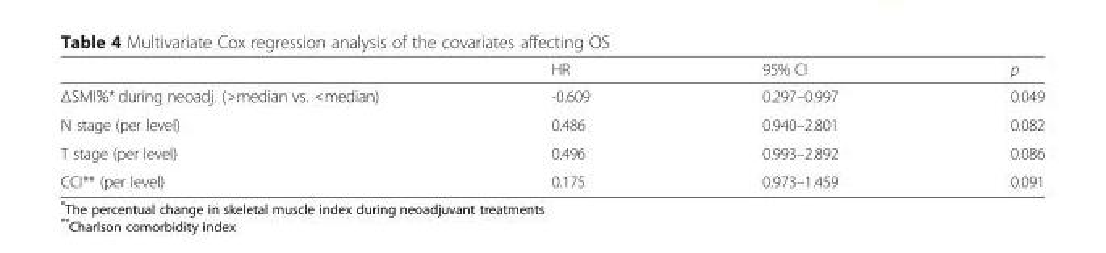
<table><thead><tr><td></td><td>HR</td><td>95% CI</td><td>p</td></tr></thead><tbody><tr><td>ΔSMI%* during neoadj. (&gt;median vs. &lt;median)</td><td>-0.609</td><td>0.297–0.997</td><td>0.049</td></tr><tr><td>N stage (per level)</td><td>0.486</td><td>0.940–2.801</td><td>0.082</td></tr><tr><td>T stage (per level)</td><td>0.496</td><td>0.993–2.892</td><td>0.086</td></tr><tr><td>CCI** (per level)</td><td>0.175</td><td>0.973–1.459</td><td>0.091</td></tr></tbody></table>